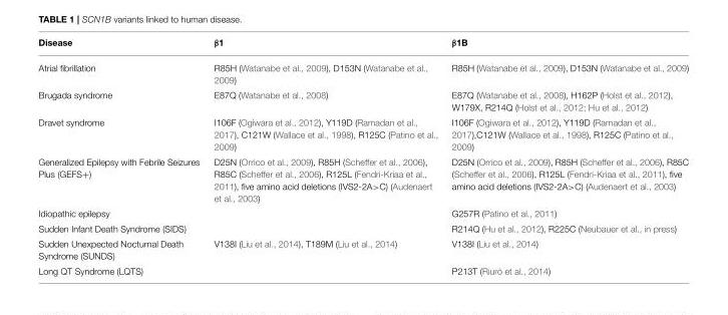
<table><thead><tr><td>Disease</td><td>β1</td><td>β1B</td></tr></thead><tbody><tr><td>Atrial fibrillation</td><td>R85H (Watanabe et al., 2009), D153N (Watanabe et al., 2009)</td><td>R85H (Watanabe et al., 2009), D153N (Watanabe et al., 2009)</td></tr><tr><td>Brugada syndrome</td><td>E87Q (Watanabe et al., 2008)</td><td>E87Q (Watanabe et al., 2008), H162P (Holst et al., 2012), W179X, R214Q (Holst et al., 2012; Hu et al., 2012)</td></tr><tr><td>Dravet syndrome</td><td>I106F (Ogiwara et al., 2012), Y119D (Ramadan et al., 2017), C121W (Wallace et al., 1998), R125C (Patino et al., 2009)</td><td>I106F (Ogiwara et al., 2012), Y119D (Ramadan et al., 2017),C121W (Wallace et al., 1998), R125C (Patino et al., 2009)</td></tr><tr><td>Generalized Epilepsy with Febrile Seizures Plus (GEFS+)</td><td>D25N (Orrico et al., 2009), R85H (Scheffer et al., 2006), R85C (Scheffer et al., 2006), R125L (Fendri-Kriaa et al., 2011), five amino acid deletions (IVS2-2A&gt;C) (Audenaert et al., 2003)</td><td>D25N (Orrico et al., 2009), R85H (Scheffer et al., 2006), R85C (Scheffer et al., 2006), R125L (Fendri-Kriaa et al., 2011), five amino acid deletions (IVS2-2A&gt;C) (Audenaert et al., 2003)</td></tr><tr><td>Idiopathic epilepsy</td><td></td><td>G257R (Patino et al., 2011)</td></tr><tr><td>Sudden Infant Death Syndrome (SIDS)</td><td></td><td>R214Q (Hu et al., 2012), R225C (Neubauer et al., in press)</td></tr><tr><td>Sudden Unexpected Nocturnal Death Syndrome (SUNDS)</td><td>V138I (Liu et al., 2014), T189M (Liu et al., 2014)</td><td>V138I (Liu et al., 2014)</td></tr><tr><td>Long QT Syndrome (LQTS)</td><td></td><td>P213T (Riuró et al., 2014)</td></tr></tbody></table>